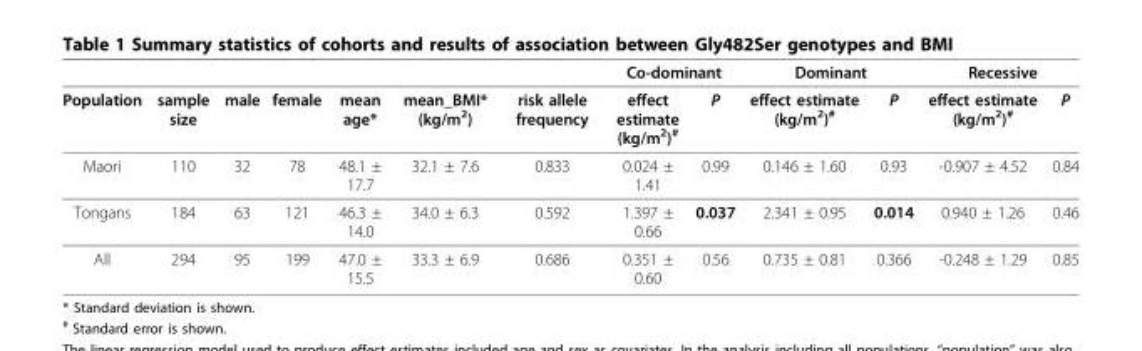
<table><thead><tr><td rowspan="2">Population</td><td rowspan="2">sample size</td><td rowspan="2">male</td><td rowspan="2">female</td><td rowspan="2">mean age*</td><td rowspan="2">mean_BMI* (kg/m<sup>2</sup>)</td><td rowspan="2">risk allele frequency</td><td colspan="2">Co-dominant</td><td colspan="2">Dominant</td><td colspan="2">Recessive</td></tr><tr><td>effect estimate (kg/m<sup>2</sup>)<sup>#</sup></td><td>P</td><td>effect estimate (kg/m<sup>2</sup>)<sup>#</sup></td><td>P</td><td>effect estimate (kg/m<sup>2</sup>)<sup>#</sup></td><td>P</td></tr></thead><tbody><tr><td>Maori</td><td>110</td><td>32</td><td>78</td><td>48.1 ± 17.7</td><td>32.1 ± 7.6</td><td>0.833</td><td>0.024 ± 1.41</td><td>0.99</td><td>0.146 ± 1.60</td><td>0.93</td><td>-0.907 ± 4.52</td><td>0.84</td></tr><tr><td>Tongans</td><td>184</td><td>63</td><td>121</td><td>46.3 ± 14.0</td><td>34.0 ± 6.3</td><td>0.592</td><td>1.397 ± 0.66</td><td>0.037</td><td>2.341 ± 0.95</td><td>0.014</td><td>0.940 ± 1.26</td><td>0.46</td></tr><tr><td>All</td><td>294</td><td>95</td><td>199</td><td>47.0 ± 15.5</td><td>33.3 ± 6.9</td><td>0.686</td><td>0.351 ± 0.60</td><td>0.56</td><td>0.735 ± 0.81</td><td>0.366</td><td>-0.248 ± 1.29</td><td>0.85</td></tr></tbody></table>